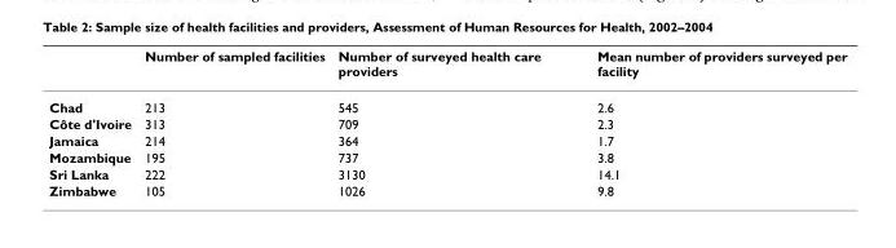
<table><thead><tr><td></td><td>Number of sampled facilities</td><td>Number of surveyed health care providers</td><td>Mean number of providers surveyed per facility</td></tr></thead><tbody><tr><td>Chad</td><td>213</td><td>545</td><td>2.6</td></tr><tr><td>Côte d&#x27;Ivoire</td><td>313</td><td>709</td><td>2.3</td></tr><tr><td>Jamaica</td><td>214</td><td>364</td><td>1.7</td></tr><tr><td>Mozambique</td><td>195</td><td>737</td><td>3.8</td></tr><tr><td>Sri Lanka</td><td>222</td><td>3130</td><td>14.1</td></tr><tr><td>Zimbabwe</td><td>105</td><td>1026</td><td>9.8</td></tr></tbody></table>